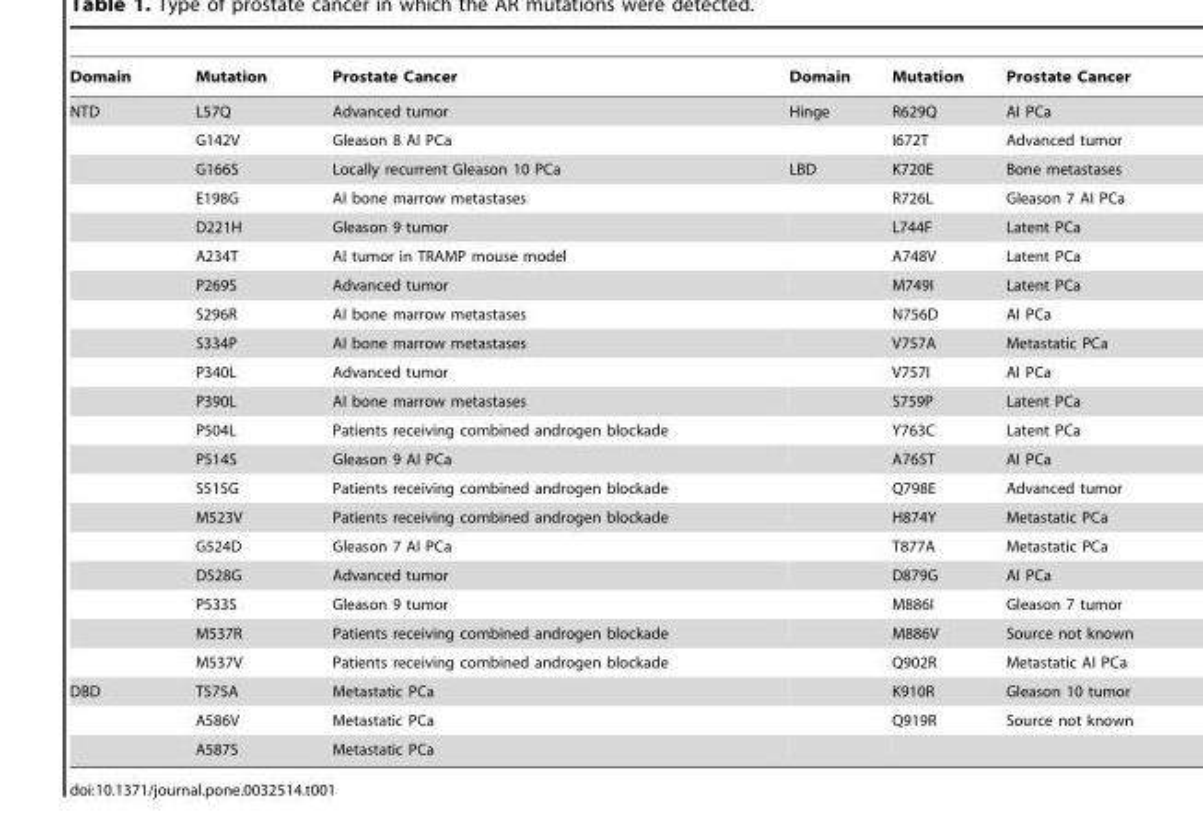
<table><thead><tr><td>Domain</td><td>Mutation</td><td>Prostate Cancer</td><td>Domain</td><td>Mutation</td><td>Prostate Cancer</td></tr></thead><tbody><tr><td rowspan="20">NTD</td><td>L57Q</td><td>Advanced tumor</td><td>Hinge</td><td>R629Q</td><td>AI PCa</td></tr><tr><td>G142V</td><td>Gleason 8 AI PCa</td><td></td><td>I672T</td><td>Advanced tumor</td></tr><tr><td>G166S</td><td>Locally recurrent Gleason 10 PCa</td><td>LBD</td><td>K720E</td><td>Bone metastases</td></tr><tr><td>E198G</td><td>AI bone marrow metastases</td><td></td><td>R726L</td><td>Gleason 7 AI PCa</td></tr><tr><td>D221H</td><td>Gleason 9 tumor</td><td></td><td>L744F</td><td>Latent PCa</td></tr><tr><td>A234T</td><td>AI tumor in TRAMP mouse model</td><td></td><td>A748V</td><td>Latent PCa</td></tr><tr><td>P269S</td><td>Advanced tumor</td><td></td><td>M749I</td><td>Latent PCa</td></tr><tr><td>S296R</td><td>AI bone marrow metastases</td><td></td><td>N756D</td><td>AI PCa</td></tr><tr><td>S334P</td><td>AI bone marrow metastases</td><td></td><td>V757A</td><td>Metastatic PCa</td></tr><tr><td>P340L</td><td>Advanced tumor</td><td></td><td>V757I</td><td>AI PCa</td></tr><tr><td>P390L</td><td>AI bone marrow metastases</td><td></td><td>S759P</td><td>Latent PCa</td></tr><tr><td>P504L</td><td>Patients receiving combined androgen blockade</td><td></td><td>Y763C</td><td>Latent PCa</td></tr><tr><td>P514S</td><td>Gleason 9 AI PCa</td><td></td><td>A765T</td><td>AI PCa</td></tr><tr><td>S515G</td><td>Patients receiving combined androgen blockade</td><td></td><td>Q798E</td><td>Advanced tumor</td></tr><tr><td>M523V</td><td>Patients receiving combined androgen blockade</td><td></td><td>H874Y</td><td>Metastatic PCa</td></tr><tr><td>G524D</td><td>Gleason 7 AI PCa</td><td></td><td>T877A</td><td>Metastatic PCa</td></tr><tr><td>D528G</td><td>Advanced tumor</td><td></td><td>D879G</td><td>AI PCa</td></tr><tr><td>P533S</td><td>Gleason 9 tumor</td><td></td><td>M886I</td><td>Gleason 7 tumor</td></tr><tr><td>M537R</td><td>Patients receiving combined androgen blockade</td><td></td><td>M886V</td><td>Source not known</td></tr><tr><td>M537V</td><td>Patients receiving combined androgen blockade</td><td></td><td>Q902R</td><td>Metastatic AI PCa</td></tr><tr><td rowspan="3">DBD</td><td>T575A</td><td>Metastatic PCa</td><td></td><td>K910R</td><td>Gleason 10 tumor</td></tr><tr><td>A586V</td><td>Metastatic PCa</td><td></td><td>Q919R</td><td>Source not known</td></tr><tr><td>A587S</td><td>Metastatic PCa</td><td></td><td></td><td></td></tr></tbody></table>